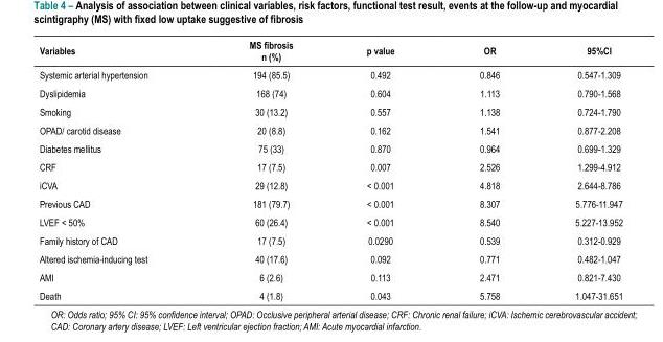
<table><thead><tr><td>Variables</td><td>MS fibrosis n (%)</td><td>p value</td><td>OR</td><td>95%CI</td></tr></thead><tbody><tr><td>Systemic arterial hypertension</td><td>194 (85.5)</td><td>0.492</td><td>0.846</td><td>0.547-1.309</td></tr><tr><td>Dyslipidemia</td><td>168 (74)</td><td>0.604</td><td>1.113</td><td>0.790-1.568</td></tr><tr><td>Smoking</td><td>30 (13.2)</td><td>0.557</td><td>1.138</td><td>0.724-1.790</td></tr><tr><td>OPAD/ carotid disease</td><td>20 (8.8)</td><td>0.162</td><td>1.541</td><td>0.877-2.208</td></tr><tr><td>Diabetes mellitus</td><td>75 (33)</td><td>0.870</td><td>0.964</td><td>0.699-1.329</td></tr><tr><td>CRF</td><td>17 (7.5)</td><td>0.007</td><td>2.526</td><td>1.299-4.912</td></tr><tr><td>iCVA</td><td>29 (12.8)</td><td>&lt; 0.001</td><td>4.818</td><td>2.644-8.786</td></tr><tr><td>Previous CAD</td><td>181 (79.7)</td><td>&lt; 0.001</td><td>8.307</td><td>5.776-11.947</td></tr><tr><td>LVEF &lt; 50%</td><td>60 (26.4)</td><td>&lt; 0.001</td><td>8.540</td><td>5.227-13.952</td></tr><tr><td>Family history of CAD</td><td>17 (7.5)</td><td>0.0290</td><td>0.539</td><td>0.312-0.929</td></tr><tr><td>Altered ischemia-inducing test</td><td>40 (17.6)</td><td>0.092</td><td>0.771</td><td>0.482-1.047</td></tr><tr><td>AMI</td><td>6 (2.6)</td><td>0.113</td><td>2.471</td><td>0.821-7.430</td></tr><tr><td>Death</td><td>4 (1.8)</td><td>0.043</td><td>5.758</td><td>1.047-31.651</td></tr></tbody></table>